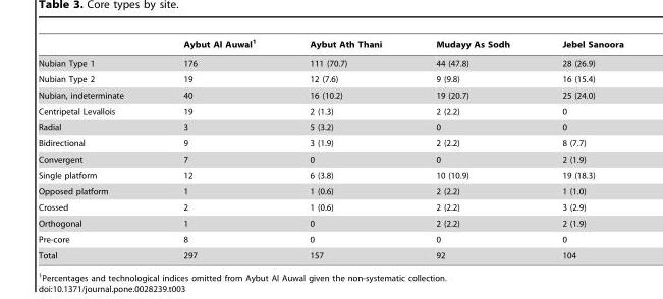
<table><thead><tr><td></td><td>Aybut Al Auwal<sup>1</sup></td><td>Aybut Ath Thani</td><td>Mudayy As Sodh</td><td>Jebel Sanoora</td></tr></thead><tbody><tr><td>Nubian Type 1</td><td>176</td><td>111 (70.7)</td><td>44 (47.8)</td><td>28 (26.9)</td></tr><tr><td>Nubian Type 2</td><td>19</td><td>12 (7.6)</td><td>9 (9.8)</td><td>16 (15.4)</td></tr><tr><td>Nubian, indeterminate</td><td>40</td><td>16 (10.2)</td><td>19 (20.7)</td><td>25 (24.0)</td></tr><tr><td>Centripetal Levallois</td><td>19</td><td>2 (1.3)</td><td>2 (2.2)</td><td>0</td></tr><tr><td>Radial</td><td>3</td><td>5 (3.2)</td><td>0</td><td>0</td></tr><tr><td>Bidirectional</td><td>9</td><td>3 (1.9)</td><td>2 (2.2)</td><td>8 (7.7)</td></tr><tr><td>Convergent</td><td>7</td><td>0</td><td>0</td><td>2 (1.9)</td></tr><tr><td>Single platform</td><td>12</td><td>6 (3.8)</td><td>10 (10.9)</td><td>19 (18.3)</td></tr><tr><td>Opposed platform</td><td>1</td><td>1 (0.6)</td><td>2 (2.2)</td><td>1 (1.0)</td></tr><tr><td>Crossed</td><td>2</td><td>1 (0.6)</td><td>2 (2.2)</td><td>3 (2.9)</td></tr><tr><td>Orthogonal</td><td>1</td><td>0</td><td>2 (2.2)</td><td>2 (1.9)</td></tr><tr><td>Pre-core</td><td>8</td><td>0</td><td>0</td><td>0</td></tr><tr><td>Total</td><td>297</td><td>157</td><td>92</td><td>104</td></tr></tbody></table>